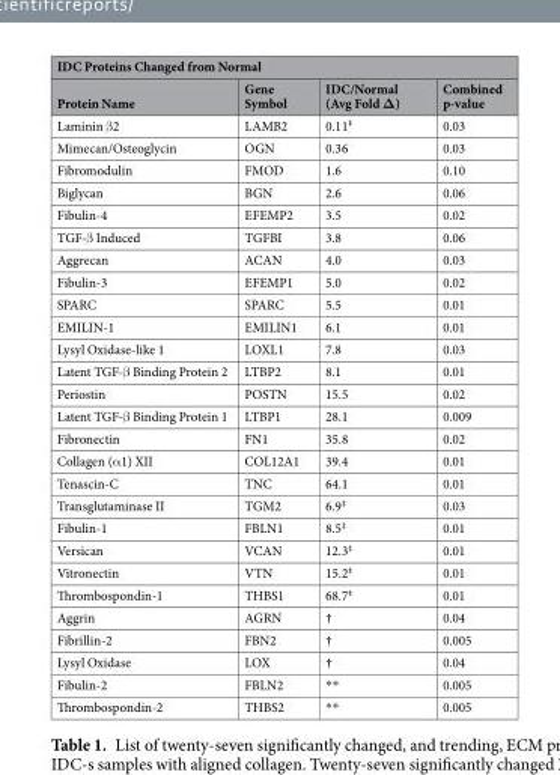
<table><thead><tr><td colspan="4">IDC Proteins Changed from Normal</td></tr><tr><td>Protein Name</td><td>Gene Symbol</td><td>IDC/Normal (Avg Fold Δ)</td><td>Combined p-value</td></tr></thead><tbody><tr><td>Laminin β2</td><td>LAMB2</td><td>0.11<sup>‡</sup></td><td>0.03</td></tr><tr><td>Mimecan/Osteoglycin</td><td>OGN</td><td>0.36</td><td>0.03</td></tr><tr><td>Fibromodulin</td><td>FMOD</td><td>1.6</td><td>0.10</td></tr><tr><td>Biglycan</td><td>BGN</td><td>2.6</td><td>0.06</td></tr><tr><td>Fibulin-4</td><td>EFEMP2</td><td>3.5</td><td>0.02</td></tr><tr><td>TGF-β Induced</td><td>TGFBI</td><td>3.8</td><td>0.06</td></tr><tr><td>Aggrecan</td><td>ACAN</td><td>4.0</td><td>0.03</td></tr><tr><td>Fibulin-3</td><td>EFEMP1</td><td>5.0</td><td>0.02</td></tr><tr><td>SPARC</td><td>SPARC</td><td>5.5</td><td>0.01</td></tr><tr><td>EMILIN-1</td><td>EMILIN1</td><td>6.1</td><td>0.01</td></tr><tr><td>Lysyl Oxidase-like 1</td><td>LOXL1</td><td>7.8</td><td>0.03</td></tr><tr><td>Latent TGF-β Binding Protein 2</td><td>LTBP2</td><td>8.1</td><td>0.01</td></tr><tr><td>Periostin</td><td>POSTN</td><td>15.5</td><td>0.02</td></tr><tr><td>Latent TGF-β Binding Protein 1</td><td>LTBP1</td><td>28.1</td><td>0.009</td></tr><tr><td>Fibronectin</td><td>FN1</td><td>35.8</td><td>0.02</td></tr><tr><td>Collagen (α1) XII</td><td>COL12A1</td><td>39.4</td><td>0.01</td></tr><tr><td>Tenascin-C</td><td>TNC</td><td>64.1</td><td>0.01</td></tr><tr><td>Transglutaminase II</td><td>TGM2</td><td>6.9<sup>‡</sup></td><td>0.03</td></tr><tr><td>Fibulin-1</td><td>FBLN1</td><td>8.5<sup>‡</sup></td><td>0.01</td></tr><tr><td>Versican</td><td>VCAN</td><td>12.3<sup>‡</sup></td><td>0.01</td></tr><tr><td>Vitronectin</td><td>VTN</td><td>15.2<sup>‡</sup></td><td>0.01</td></tr><tr><td>Thrombospondin-1</td><td>THBS1</td><td>68.7<sup>‡</sup></td><td>0.01</td></tr><tr><td>Aggrin</td><td>AGRN</td><td>†</td><td>0.04</td></tr><tr><td>Fibrillin-2</td><td>FBN2</td><td>†</td><td>0.005</td></tr><tr><td>Lysyl Oxidase</td><td>LOX</td><td>†</td><td>0.04</td></tr><tr><td>Fibulin-2</td><td>FBLN2</td><td>**</td><td>0.005</td></tr><tr><td>Thrombospondin-2</td><td>THBS2</td><td>**</td><td>0.005</td></tr></tbody></table>